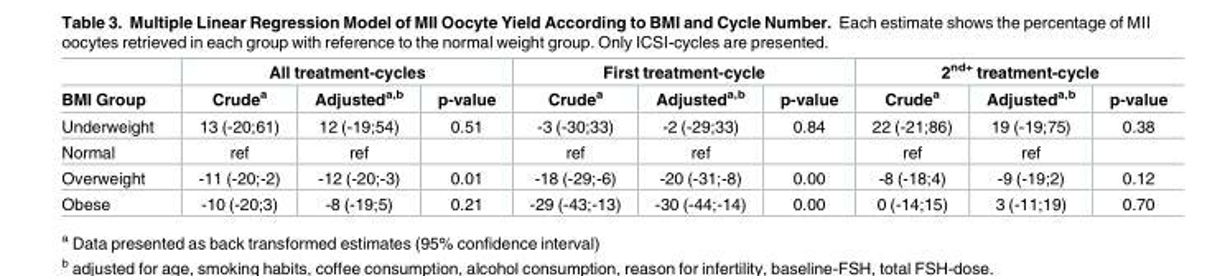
<table><thead><tr><td rowspan="2">BMI Group</td><td colspan="3">All treatment-cycles</td><td colspan="3">First treatment-cycle</td><td colspan="3">2<sup>nd+</sup> treatment-cycle</td></tr><tr><td>Crude<sup>a</sup></td><td>Adjusted<sup>a,b</sup></td><td>p-value</td><td>Crude<sup>a</sup></td><td>Adjusted<sup>a,b</sup></td><td>p-value</td><td>Crude<sup>a</sup></td><td>Adjusted<sup>a,b</sup></td><td>p-value</td></tr></thead><tbody><tr><td>Underweight</td><td>13 (-20;61)</td><td>12 (-19;54)</td><td>0.51</td><td>-3 (-30;33)</td><td>-2 (-29;33)</td><td>0.84</td><td>22 (-21;86)</td><td>19 (-19;75)</td><td>0.38</td></tr><tr><td>Normal</td><td>ref</td><td>ref</td><td></td><td>ref</td><td>ref</td><td></td><td>ref</td><td>ref</td><td></td></tr><tr><td>Overweight</td><td>-11 (-20;-2)</td><td>-12 (-20;-3)</td><td>0.01</td><td>-18 (-29;-6)</td><td>-20 (-31;-8)</td><td>0.00</td><td>-8 (-18;4)</td><td>-9 (-19;2)</td><td>0.12</td></tr><tr><td>Obese</td><td>-10 (-20;3)</td><td>-8 (-19;5)</td><td>0.21</td><td>-29 (-43;-13)</td><td>-30 (-44;-14)</td><td>0.00</td><td>0 (-14;15)</td><td>3 (-11;19)</td><td>0.70</td></tr></tbody></table>